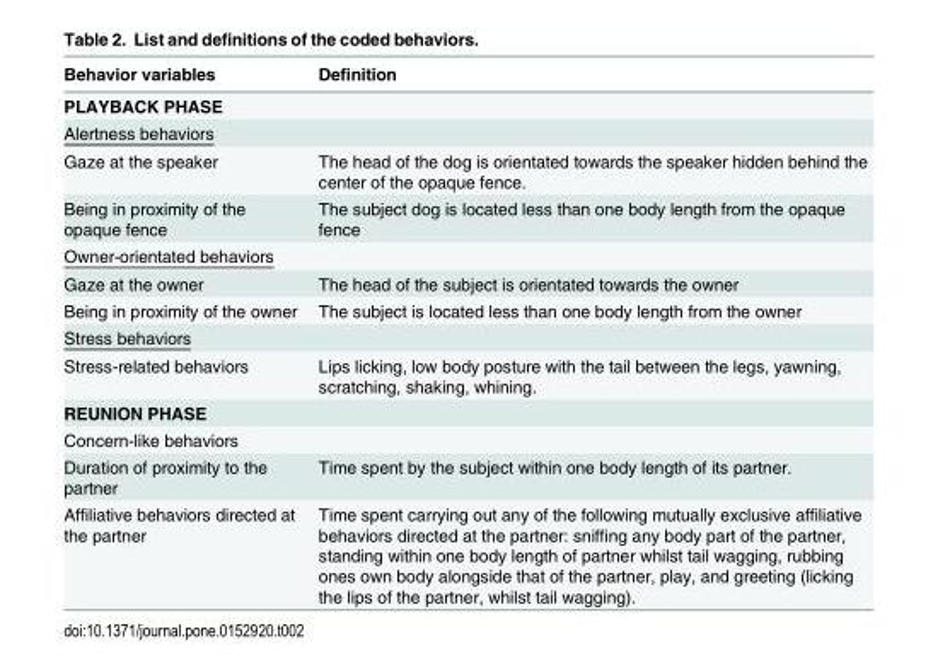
<table><thead><tr><td>Behavior variables</td><td>Definition</td></tr></thead><tbody><tr><td colspan="2">PLAYBACK PHASE</td></tr><tr><td colspan="2">Alertness behaviors</td></tr><tr><td>Gaze at the speaker</td><td>The head of the dog is orientated towards the speaker hidden behind the center of the opaque fence.</td></tr><tr><td>Being in proximity of the opaque fence</td><td>The subject dog is located less than one body length from the opaque fence</td></tr><tr><td colspan="2">Owner-orientated behaviors</td></tr><tr><td>Gaze at the owner</td><td>The head of the subject is orientated towards the owner</td></tr><tr><td>Being in proximity of the owner</td><td>The subject is located less than one body length from the owner</td></tr><tr><td colspan="2">Stress behaviors</td></tr><tr><td>Stress-related behaviors</td><td>Lips licking, low body posture with the tail between the legs, yawning, scratching, shaking, whining.</td></tr><tr><td colspan="2">REUNION PHASE</td></tr><tr><td colspan="2">Concern-like behaviors</td></tr><tr><td>Duration of proximity to the partner</td><td>Time spent by the subject within one body length of its partner.</td></tr><tr><td>Affiliative behaviors directed at the partner</td><td>Time spent carrying out any of the following mutually exclusive affiliative behaviors directed at the partner: sniffing any body part of the partner, standing within one body length of partner whilst tail wagging, rubbing ones own body alongside that of the partner, play, and greeting (licking the lips of the partner, whilst tail wagging).</td></tr></tbody></table>